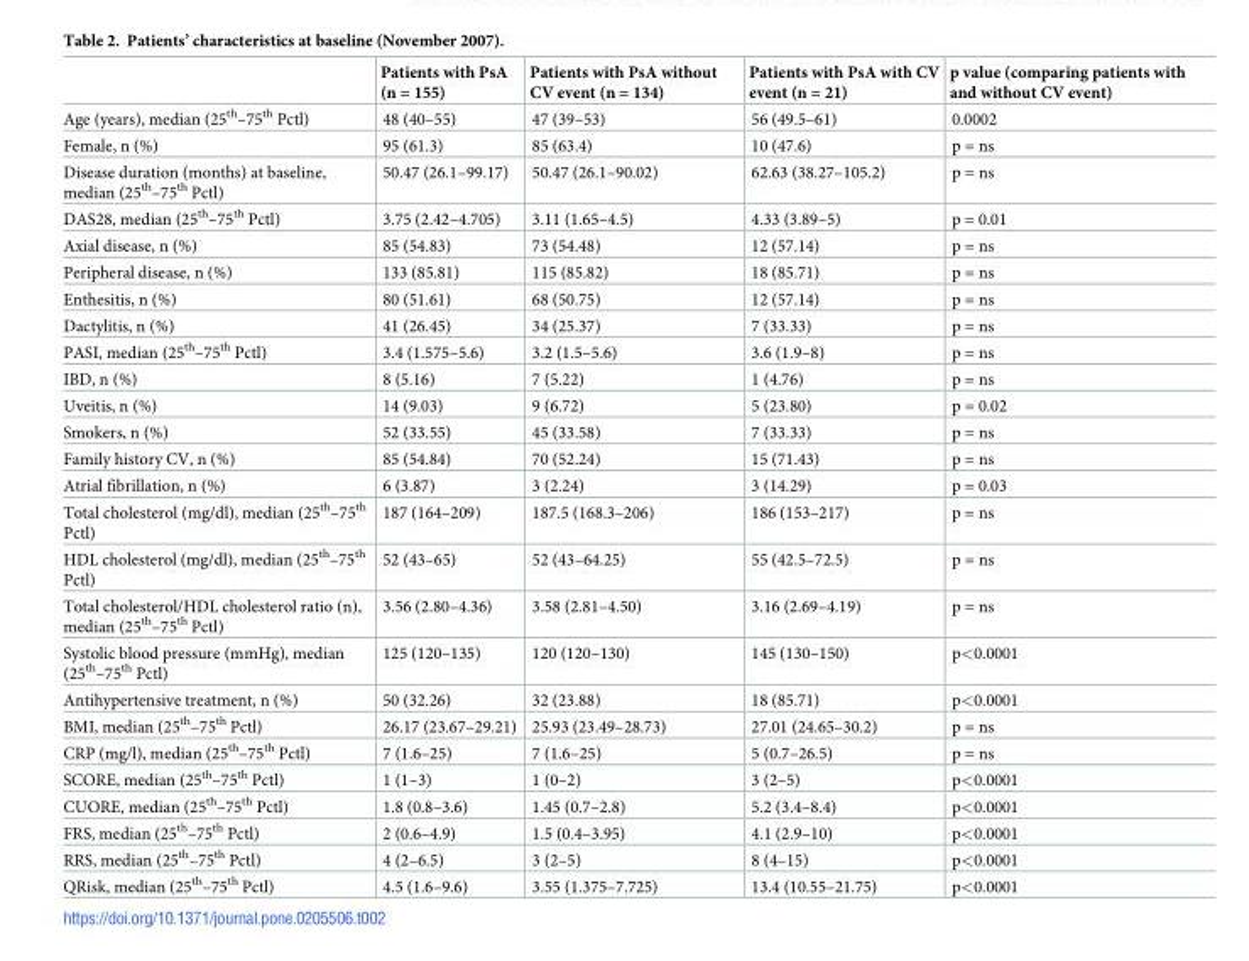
<table><thead><tr><td></td><td>Patients with PsA (n = 155)</td><td>Patients with PsA without CV event (n = 134)</td><td>Patients with PsA with CV event (n = 21)</td><td>p value (comparing patients with and without CV event)</td></tr></thead><tbody><tr><td>Age (years), median (25<sup>th</sup>–75<sup>th</sup> Pctl)</td><td>48 (40–55)</td><td>47 (39–53)</td><td>56 (49.5–61)</td><td>0.0002</td></tr><tr><td>Female, n (%)</td><td>95 (61.3)</td><td>85 (63.4)</td><td>10 (47.6)</td><td>p = ns</td></tr><tr><td>Disease duration (months) at baseline, median (25<sup>th</sup>–75<sup>th</sup> Pctl)</td><td>50.47 (26.1–99.17)</td><td>50.47 (26.1–90.02)</td><td>62.63 (38.27–105.2)</td><td>p = ns</td></tr><tr><td>DAS28, median (25<sup>th</sup>–75<sup>th</sup> Pctl)</td><td>3.75 (2.42–4.705)</td><td>3.11 (1.65–4.5)</td><td>4.33 (3.89–5)</td><td>p = 0.01</td></tr><tr><td>Axial disease, n (%)</td><td>85 (54.83)</td><td>73 (54.48)</td><td>12 (57.14)</td><td>p = ns</td></tr><tr><td>Peripheral disease, n (%)</td><td>133 (85.81)</td><td>115 (85.82)</td><td>18 (85.71)</td><td>p = ns</td></tr><tr><td>Enthesitis, n (%)</td><td>80 (51.61)</td><td>68 (50.75)</td><td>12 (57.14)</td><td>p = ns</td></tr><tr><td>Dactylitis, n (%)</td><td>41 (26.45)</td><td>34 (25.37)</td><td>7 (33.33)</td><td>p = ns</td></tr><tr><td>PASI, median (25<sup>th</sup>–75<sup>th</sup> Pctl)</td><td>3.4 (1.575–5.6)</td><td>3.2 (1.5–5.6)</td><td>3.6 (1.9–8)</td><td>p = ns</td></tr><tr><td>IBD, n (%)</td><td>8 (5.16)</td><td>7 (5.22)</td><td>1 (4.76)</td><td>p = ns</td></tr><tr><td>Uveitis, n (%)</td><td>14 (9.03)</td><td>9 (6.72)</td><td>5 (23.80)</td><td>p = 0.02</td></tr><tr><td>Smokers, n (%)</td><td>52 (33.55)</td><td>45 (33.58)</td><td>7 (33.33)</td><td>p = ns</td></tr><tr><td>Family history CV, n (%)</td><td>85 (54.84)</td><td>70 (52.24)</td><td>15 (71.43)</td><td>p = ns</td></tr><tr><td>Atrial fibrillation, n (%)</td><td>6 (3.87)</td><td>3 (2.24)</td><td>3 (14.29)</td><td>p = 0.03</td></tr><tr><td>Total cholesterol (mg/dl), median (25<sup>th</sup>–75<sup>th</sup> Pctl)</td><td>187 (164–209)</td><td>187.5 (168.3–206)</td><td>186 (153–217)</td><td>p = ns</td></tr><tr><td>HDL cholesterol (mg/dl), median (25<sup>th</sup>–75<sup>th</sup> Pctl)</td><td>52 (43–65)</td><td>52 (43–64.25)</td><td>55 (42.5–72.5)</td><td>p = ns</td></tr><tr><td>Total cholesterol/HDL cholesterol ratio (n), median (25<sup>th</sup>–75<sup>th</sup> Pctl)</td><td>3.56 (2.80–4.36)</td><td>3.58 (2.81–4.50)</td><td>3.16 (2.69–4.19)</td><td>p = ns</td></tr><tr><td>Systolic blood pressure (mmHg), median (25<sup>th</sup>–75<sup>th</sup> Pctl)</td><td>125 (120–135)</td><td>120 (120–130)</td><td>145 (130–150)</td><td>p&lt;0.0001</td></tr><tr><td>Antihypertensive treatment, n (%)</td><td>50 (32.26)</td><td>32 (23.88)</td><td>18 (85.71)</td><td>p&lt;0.0001</td></tr><tr><td>BMI, median (25<sup>th</sup>–75<sup>th</sup> Pctl)</td><td>26.17 (23.67–29.21)</td><td>25.93 (23.49–28.73)</td><td>27.01 (24.65–30.2)</td><td>p = ns</td></tr><tr><td>CRP (mg/l), median (25<sup>th</sup>–75<sup>th</sup> Pctl)</td><td>7 (1.6–25)</td><td>7 (1.6–25)</td><td>5 (0.7–26.5)</td><td>p = ns</td></tr><tr><td>SCORE, median (25<sup>th</sup>–75<sup>th</sup> Pctl)</td><td>1 (1–3)</td><td>1 (0–2)</td><td>3 (2–5)</td><td>p&lt;0.0001</td></tr><tr><td>CUORE, median (25<sup>th</sup>–75<sup>th</sup> Pctl)</td><td>1.8 (0.8–3.6)</td><td>1.45 (0.7–2.8)</td><td>5.2 (3.4–8.4)</td><td>p&lt;0.0001</td></tr><tr><td>FRS, median (25<sup>th</sup>–75<sup>th</sup> Pctl)</td><td>2 (0.6–4.9)</td><td>1.5 (0.4–3.95)</td><td>4.1 (2.9–10)</td><td>p&lt;0.0001</td></tr><tr><td>RRS, median (25<sup>th</sup>–75<sup>th</sup> Pctl)</td><td>4 (2–6.5)</td><td>3 (2–5)</td><td>8 (4–15)</td><td>p&lt;0.0001</td></tr><tr><td>QRisk, median (25<sup>th</sup>–75<sup>th</sup> Pctl)</td><td>4.5 (1.6–9.6)</td><td>3.55 (1.375–7.725)</td><td>13.4 (10.55–21.75)</td><td>p&lt;0.0001</td></tr></tbody></table>